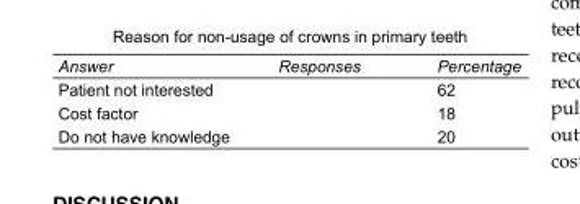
<table><tbody><tr><td>Answer</td><td>Responses</td><td>Percentage</td></tr><tr><td>Patient not interested</td><td></td><td>62</td></tr><tr><td>Cost factor</td><td></td><td>18</td></tr><tr><td>Do not have knowledge</td><td></td><td>20</td></tr></tbody></table>